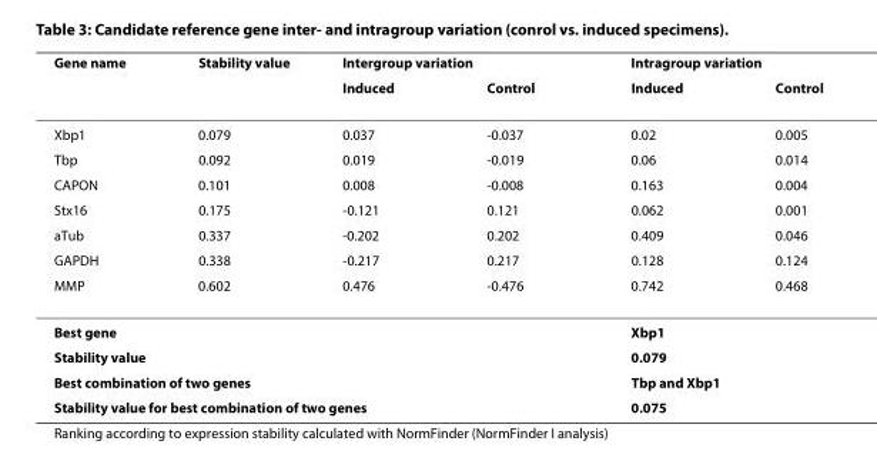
<table><thead><tr><td rowspan="2">Gene name</td><td rowspan="2">Stability value</td><td colspan="2">Intergroup variation</td><td colspan="2">Intragroup variation</td></tr><tr><td>Induced</td><td>Control</td><td>Induced</td><td>Control</td></tr></thead><tbody><tr><td>Xbp1</td><td>0.079</td><td>0.037</td><td>-0.037</td><td>0.02</td><td>0.005</td></tr><tr><td>Tbp</td><td>0.092</td><td>0.019</td><td>-0.019</td><td>0.06</td><td>0.014</td></tr><tr><td>CAPON</td><td>0.101</td><td>0.008</td><td>-0.008</td><td>0.163</td><td>0.004</td></tr><tr><td>Stx16</td><td>0.175</td><td>-0.121</td><td>0.121</td><td>0.062</td><td>0.001</td></tr><tr><td>aTub</td><td>0.337</td><td>-0.202</td><td>0.202</td><td>0.409</td><td>0.046</td></tr><tr><td>GAPDH</td><td>0.338</td><td>-0.217</td><td>0.217</td><td>0.128</td><td>0.124</td></tr><tr><td>MMP</td><td>0.602</td><td>0.476</td><td>-0.476</td><td>0.742</td><td>0.468</td></tr><tr><td colspan="4">Best gene</td><td colspan="2">Xbp1</td></tr><tr><td colspan="4">Stability value</td><td colspan="2">0.079</td></tr><tr><td colspan="4">Best combination of two genes</td><td colspan="2">Tbp and Xbp1</td></tr><tr><td colspan="4">Stability value for best combination of two genes</td><td colspan="2">0.075</td></tr></tbody></table>